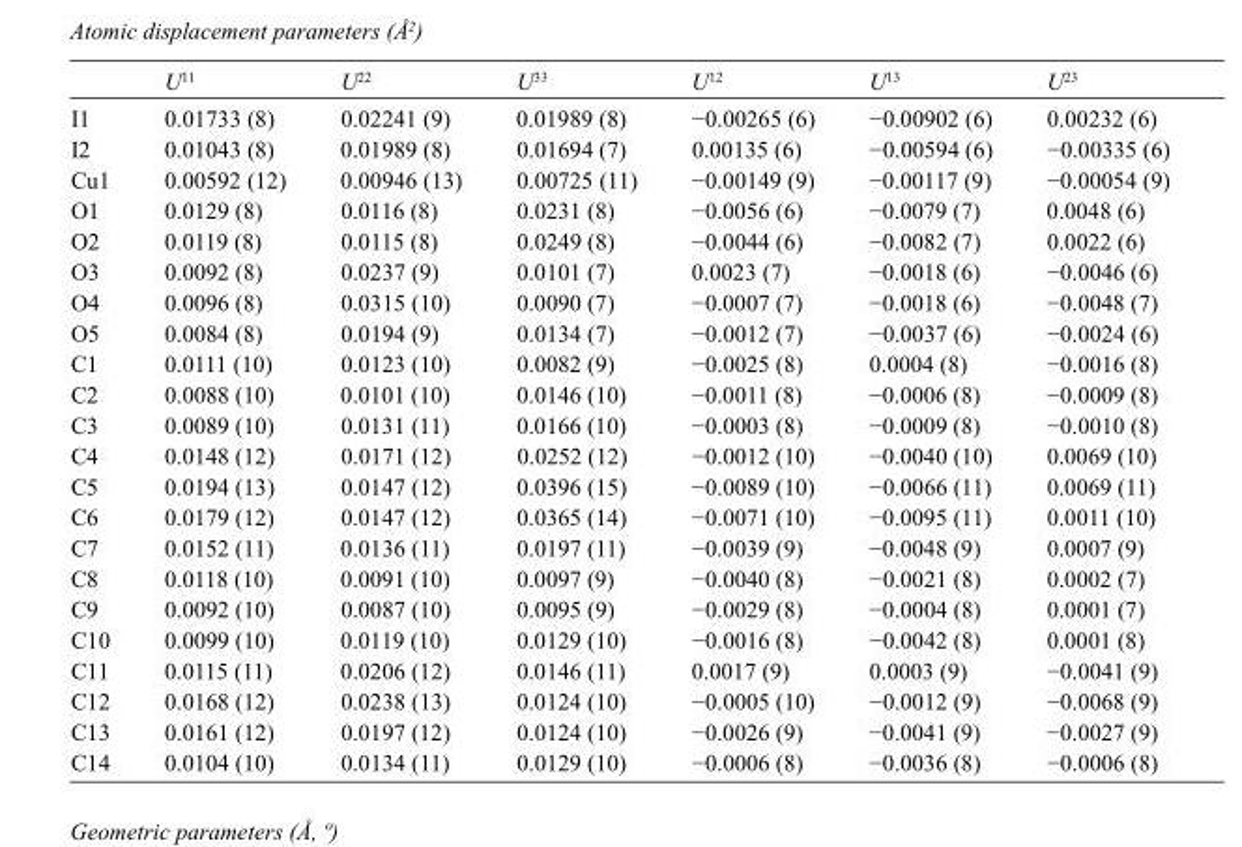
<table><thead><tr><td></td><td>U<sup>11</sup></td><td>U<sup>22</sup></td><td>U<sup>33</sup></td><td>U<sup>12</sup></td><td>U<sup>13</sup></td><td>U<sup>23</sup></td></tr></thead><tbody><tr><td>I1</td><td>0.01733 (8)</td><td>0.02241 (9)</td><td>0.01989 (8)</td><td>−0.00265 (6)</td><td>−0.00902 (6)</td><td>0.00232 (6)</td></tr><tr><td>I2</td><td>0.01043 (8)</td><td>0.01989 (8)</td><td>0.01694 (7)</td><td>0.00135 (6)</td><td>−0.00594 (6)</td><td>−0.00335 (6)</td></tr><tr><td>Cu1</td><td>0.00592 (12)</td><td>0.00946 (13)</td><td>0.00725 (11)</td><td>−0.00149 (9)</td><td>−0.00117 (9)</td><td>−0.00054 (9)</td></tr><tr><td>O1</td><td>0.0129 (8)</td><td>0.0116 (8)</td><td>0.0231 (8)</td><td>−0.0056 (6)</td><td>−0.0079 (7)</td><td>0.0048 (6)</td></tr><tr><td>O2</td><td>0.0119 (8)</td><td>0.0115 (8)</td><td>0.0249 (8)</td><td>−0.0044 (6)</td><td>−0.0082 (7)</td><td>0.0022 (6)</td></tr><tr><td>O3</td><td>0.0092 (8)</td><td>0.0237 (9)</td><td>0.0101 (7)</td><td>0.0023 (7)</td><td>−0.0018 (6)</td><td>−0.0046 (6)</td></tr><tr><td>O4</td><td>0.0096 (8)</td><td>0.0315 (10)</td><td>0.0090 (7)</td><td>−0.0007 (7)</td><td>−0.0018 (6)</td><td>−0.0048 (7)</td></tr><tr><td>O5</td><td>0.0084 (8)</td><td>0.0194 (9)</td><td>0.0134 (7)</td><td>−0.0012 (7)</td><td>−0.0037 (6)</td><td>−0.0024 (6)</td></tr><tr><td>C1</td><td>0.0111 (10)</td><td>0.0123 (10)</td><td>0.0082 (9)</td><td>−0.0025 (8)</td><td>0.0004 (8)</td><td>−0.0016 (8)</td></tr><tr><td>C2</td><td>0.0088 (10)</td><td>0.0101 (10)</td><td>0.0146 (10)</td><td>−0.0011 (8)</td><td>−0.0006 (8)</td><td>−0.0009 (8)</td></tr><tr><td>C3</td><td>0.0089 (10)</td><td>0.0131 (11)</td><td>0.0166 (10)</td><td>−0.0003 (8)</td><td>−0.0009 (8)</td><td>−0.0010 (8)</td></tr><tr><td>C4</td><td>0.0148 (12)</td><td>0.0171 (12)</td><td>0.0252 (12)</td><td>−0.0012 (10)</td><td>−0.0040 (10)</td><td>0.0069 (10)</td></tr><tr><td>C5</td><td>0.0194 (13)</td><td>0.0147 (12)</td><td>0.0396 (15)</td><td>−0.0089 (10)</td><td>−0.0066 (11)</td><td>0.0069 (11)</td></tr><tr><td>C6</td><td>0.0179 (12)</td><td>0.0147 (12)</td><td>0.0365 (14)</td><td>−0.0071 (10)</td><td>−0.0095 (11)</td><td>0.0011 (10)</td></tr><tr><td>C7</td><td>0.0152 (11)</td><td>0.0136 (11)</td><td>0.0197 (11)</td><td>−0.0039 (9)</td><td>−0.0048 (9)</td><td>0.0007 (9)</td></tr><tr><td>C8</td><td>0.0118 (10)</td><td>0.0091 (10)</td><td>0.0097 (9)</td><td>−0.0040 (8)</td><td>−0.0021 (8)</td><td>0.0002 (7)</td></tr><tr><td>C9</td><td>0.0092 (10)</td><td>0.0087 (10)</td><td>0.0095 (9)</td><td>−0.0029 (8)</td><td>−0.0004 (8)</td><td>0.0001 (7)</td></tr><tr><td>C10</td><td>0.0099 (10)</td><td>0.0119 (10)</td><td>0.0129 (10)</td><td>−0.0016 (8)</td><td>−0.0042 (8)</td><td>0.0001 (8)</td></tr><tr><td>C11</td><td>0.0115 (11)</td><td>0.0206 (12)</td><td>0.0146 (11)</td><td>0.0017 (9)</td><td>0.0003 (9)</td><td>−0.0041 (9)</td></tr><tr><td>C12</td><td>0.0168 (12)</td><td>0.0238 (13)</td><td>0.0124 (10)</td><td>−0.0005 (10)</td><td>−0.0012 (9)</td><td>−0.0068 (9)</td></tr><tr><td>C13</td><td>0.0161 (12)</td><td>0.0197 (12)</td><td>0.0124 (10)</td><td>−0.0026 (9)</td><td>−0.0041 (9)</td><td>−0.0027 (9)</td></tr><tr><td>C14</td><td>0.0104 (10)</td><td>0.0134 (11)</td><td>0.0129 (10)</td><td>−0.0006 (8)</td><td>−0.0036 (8)</td><td>−0.0006 (8)</td></tr></tbody></table>